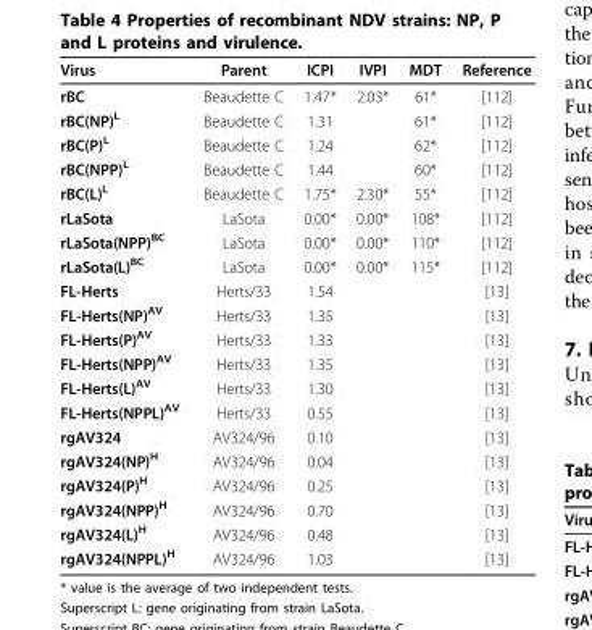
<table><thead><tr><td>Virus</td><td>Parent</td><td>ICPI</td><td>IVPI</td><td>MDT</td><td>Reference</td></tr></thead><tbody><tr><td>rBC</td><td>Beaudette C</td><td>1.47*</td><td>2.03*</td><td>61*</td><td>[112]</td></tr><tr><td>rBC(NP)<sup>L</sup></td><td>Beaudette C</td><td>1.31</td><td></td><td>61*</td><td>[112]</td></tr><tr><td>rBC(P)<sup>L</sup></td><td>Beaudette C</td><td>1.24</td><td></td><td>62*</td><td>[112]</td></tr><tr><td>rBC(NPP)<sup>L</sup></td><td>Beaudette C</td><td>1.44</td><td></td><td>60*</td><td>[112]</td></tr><tr><td>rBC(L)<sup>L</sup></td><td>Beaudette C</td><td>1.75*</td><td>2.30*</td><td>55*</td><td>[112]</td></tr><tr><td>rLaSota</td><td>LaSota</td><td>0.00*</td><td>0.00*</td><td>108*</td><td>[112]</td></tr><tr><td>rLaSota(NPP)<sup>BC</sup></td><td>LaSota</td><td>0.00*</td><td>0.00*</td><td>110*</td><td>[112]</td></tr><tr><td>rLaSota(L)<sup>BC</sup></td><td>LaSota</td><td>0.00*</td><td>0.00*</td><td>115*</td><td>[112]</td></tr><tr><td>FL-Herts</td><td>Herts/33</td><td>1.54</td><td></td><td></td><td>[13]</td></tr><tr><td>FL-Herts(NP)<sup>AV</sup></td><td>Herts/33</td><td>1.35</td><td></td><td></td><td>[13]</td></tr><tr><td>FL-Herts(P)<sup>AV</sup></td><td>Herts/33</td><td>1.33</td><td></td><td></td><td>[13]</td></tr><tr><td>FL-Herts(NPP)<sup>AV</sup></td><td>Herts/33</td><td>1.35</td><td></td><td></td><td>[13]</td></tr><tr><td>FL-Herts(L)<sup>AV</sup></td><td>Herts/33</td><td>1.30</td><td></td><td></td><td>[13]</td></tr><tr><td>FL-Herts(NPPL)<sup>AV</sup></td><td>Herts/33</td><td>0.55</td><td></td><td></td><td>[13]</td></tr><tr><td>rgAV324</td><td>AV324/96</td><td>0.10</td><td></td><td></td><td>[13]</td></tr><tr><td>rgAV324(NP)<sup>H</sup></td><td>AV324/96</td><td>0.04</td><td></td><td></td><td>[13]</td></tr><tr><td>rgAV324(P)<sup>H</sup></td><td>AV324/96</td><td>0.25</td><td></td><td></td><td>[13]</td></tr><tr><td>rgAV324(NPP)<sup>H</sup></td><td>AV324/96</td><td>0.70</td><td></td><td></td><td>[13]</td></tr><tr><td>rgAV324(L)<sup>H</sup></td><td>AV324/96</td><td>0.48</td><td></td><td></td><td>[13]</td></tr><tr><td>rgAV324(NPPL)<sup>H</sup></td><td>AV324/96</td><td>1.03</td><td></td><td></td><td>[13]</td></tr></tbody></table>